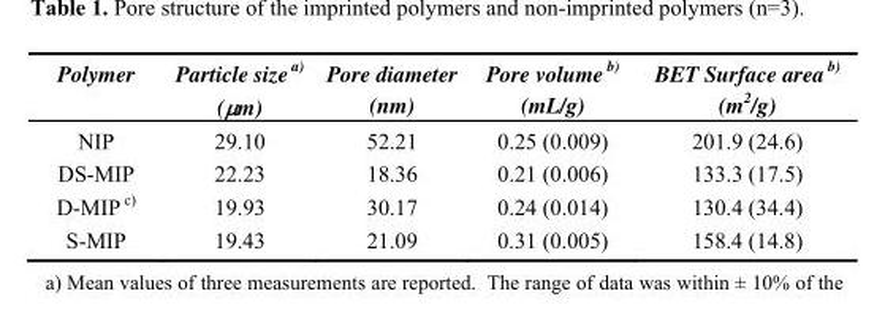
<table><thead><tr><td>Polymer</td><td>Particle size a) (μm)</td><td>Pore diameter (nm)</td><td>Pore volume b) (mL/g)</td><td>BET Surface area b) (m<sup>2</sup>/g)</td></tr></thead><tbody><tr><td>NIP</td><td>29.10</td><td>52.21</td><td>0.25 (0.009)</td><td>201.9 (24.6)</td></tr><tr><td>DS-MIP</td><td>22.23</td><td>18.36</td><td>0.21 (0.006)</td><td>133.3 (17.5)</td></tr><tr><td>D-MIP c)</td><td>19.93</td><td>30.17</td><td>0.24 (0.014)</td><td>130.4 (34.4)</td></tr><tr><td>S-MIP</td><td>19.43</td><td>21.09</td><td>0.31 (0.005)</td><td>158.4 (14.8)</td></tr></tbody></table>